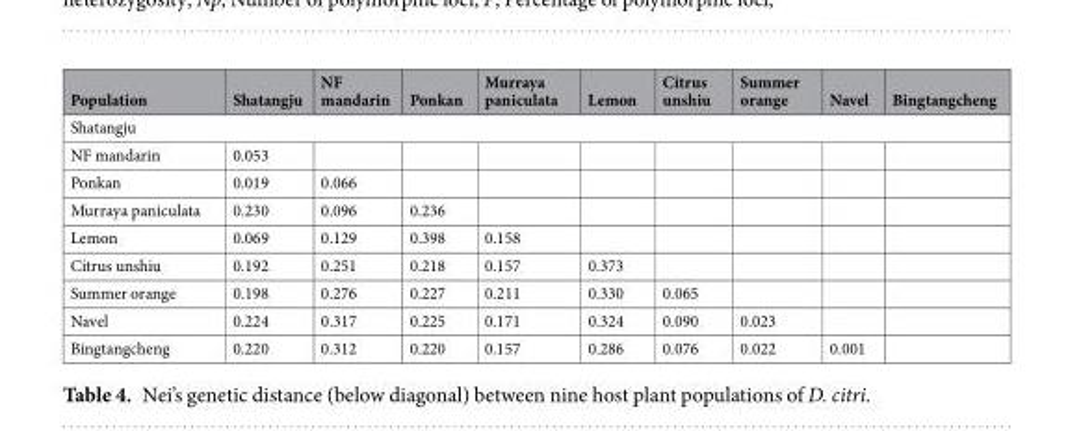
<table><thead><tr><td>Population</td><td>Shatangju</td><td>NF mandarin</td><td>Ponkan</td><td>Murraya paniculata</td><td>Lemon</td><td>Citrus unshiu</td><td>Summer orange</td><td>Navel</td><td>Bingtangcheng</td></tr></thead><tbody><tr><td colspan="10">Shatangju</td></tr><tr><td>NF mandarin</td><td>0.053</td><td></td><td></td><td></td><td></td><td></td><td></td><td></td><td></td></tr><tr><td>Ponkan</td><td>0.019</td><td>0.066</td><td></td><td></td><td></td><td></td><td></td><td></td><td></td></tr><tr><td>Murraya paniculata</td><td>0.230</td><td>0.096</td><td>0.236</td><td></td><td></td><td></td><td></td><td></td><td></td></tr><tr><td>Lemon</td><td>0.069</td><td>0.129</td><td>0.398</td><td>0.158</td><td></td><td></td><td></td><td></td><td></td></tr><tr><td>Citrus unshiu</td><td>0.192</td><td>0.251</td><td>0.218</td><td>0.157</td><td>0.373</td><td></td><td></td><td></td><td></td></tr><tr><td>Summer orange</td><td>0.198</td><td>0.276</td><td>0.227</td><td>0.211</td><td>0.330</td><td>0.065</td><td></td><td></td><td></td></tr><tr><td>Navel</td><td>0.224</td><td>0.317</td><td>0.225</td><td>0.171</td><td>0.324</td><td>0.090</td><td>0.023</td><td></td><td></td></tr><tr><td>Bingtangcheng</td><td>0.220</td><td>0.312</td><td>0.220</td><td>0.157</td><td>0.286</td><td>0.076</td><td>0.022</td><td>0.001</td><td></td></tr></tbody></table>